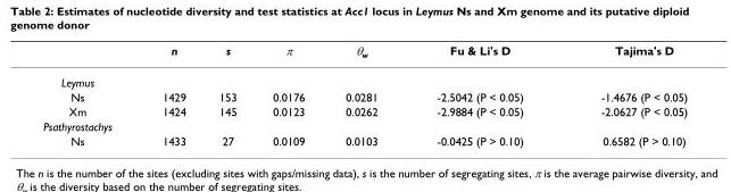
<table><thead><tr><td></td><td>n</td><td>s</td><td>π</td><td>θ<sub>w</sub></td><td>Fu &amp; Li&#x27;s D</td><td>Tajima&#x27;s D</td></tr></thead><tbody><tr><td colspan="7">Leymus</td></tr><tr><td>Ns</td><td>1429</td><td>153</td><td>0.0176</td><td>0.0281</td><td>-2.5042 (P &lt; 0.05)</td><td>-1.4676 (P &lt; 0.05)</td></tr><tr><td>Xm</td><td>1424</td><td>145</td><td>0.0123</td><td>0.0262</td><td>-2.9884 (P &lt; 0.05)</td><td>-2.0627 (P &lt; 0.05)</td></tr><tr><td colspan="7">Psathyrostachys</td></tr><tr><td>Ns</td><td>1433</td><td>27</td><td>0.0109</td><td>0.0103</td><td>-0.0425 (P &gt; 0.10)</td><td>0.6582 (P &gt; 0.10)</td></tr></tbody></table>